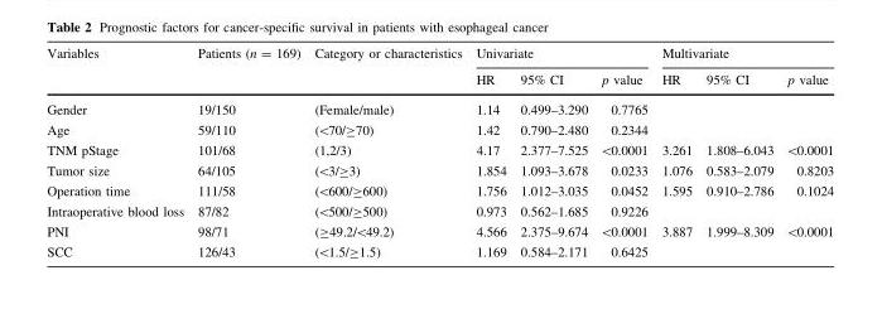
<table><thead><tr><td rowspan="2">Variables</td><td rowspan="2">Patients (n = 169)</td><td rowspan="2">Category or characteristics</td><td colspan="3">Univariate</td><td colspan="3">Multivariate</td></tr><tr><td>HR</td><td>95% CI</td><td>p value</td><td>HR</td><td>95% CI</td><td>p value</td></tr></thead><tbody><tr><td>Gender</td><td>19/150</td><td>(Female/male)</td><td>1.14</td><td>0.499–3.290</td><td>0.7765</td><td></td><td></td><td></td></tr><tr><td>Age</td><td>59/110</td><td>(&lt;70/≥70)</td><td>1.42</td><td>0.790–2.480</td><td>0.2344</td><td></td><td></td><td></td></tr><tr><td>TNM pStage</td><td>101/68</td><td>(1,2/3)</td><td>4.17</td><td>2.377–7.525</td><td>&lt;0.0001</td><td>3.261</td><td>1.808–6.043</td><td>&lt;0.0001</td></tr><tr><td>Tumor size</td><td>64/105</td><td>(&lt;3/≥3)</td><td>1.854</td><td>1.093–3.678</td><td>0.0233</td><td>1.076</td><td>0.583–2.079</td><td>0.8203</td></tr><tr><td>Operation time</td><td>111/58</td><td>(&lt;600/≥600)</td><td>1.756</td><td>1.012–3.035</td><td>0.0452</td><td>1.595</td><td>0.910–2.786</td><td>0.1024</td></tr><tr><td>Intraoperative blood loss</td><td>87/82</td><td>(&lt;500/≥500)</td><td>0.973</td><td>0.562–1.685</td><td>0.9226</td><td></td><td></td><td></td></tr><tr><td>PNI</td><td>98/71</td><td>(≥49.2/&lt;49.2)</td><td>4.566</td><td>2.375–9.674</td><td>&lt;0.0001</td><td>3.887</td><td>1.999–8.309</td><td>&lt;0.0001</td></tr><tr><td>SCC</td><td>126/43</td><td>(&lt;1.5/≥1.5)</td><td>1.169</td><td>0.584–2.171</td><td>0.6425</td><td></td><td></td><td></td></tr></tbody></table>